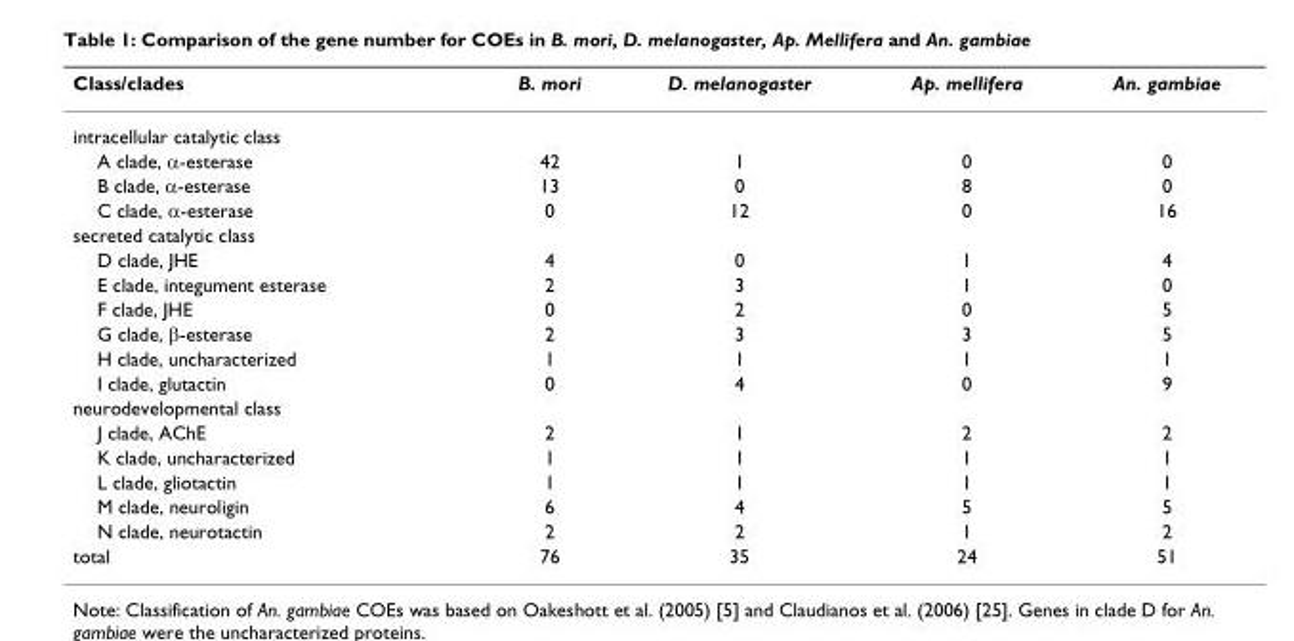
<table><thead><tr><td>Class/clades</td><td>B. mori</td><td>D. melanogaster</td><td>Ap. mellifera</td><td>An. gambiae</td></tr></thead><tbody><tr><td colspan="5">intracellular catalytic class</td></tr><tr><td>A clade, α-esterase</td><td>42</td><td>1</td><td>0</td><td>0</td></tr><tr><td>B clade, α-esterase</td><td>13</td><td>0</td><td>8</td><td>0</td></tr><tr><td>C clade, α-esterase</td><td>0</td><td>12</td><td>0</td><td>16</td></tr><tr><td colspan="5">secreted catalytic class</td></tr><tr><td>D clade, JHE</td><td>4</td><td>0</td><td>1</td><td>4</td></tr><tr><td>E clade, integument esterase</td><td>2</td><td>3</td><td>1</td><td>0</td></tr><tr><td>F clade, JHE</td><td>0</td><td>2</td><td>0</td><td>5</td></tr><tr><td>G clade, β-esterase</td><td>2</td><td>3</td><td>3</td><td>5</td></tr><tr><td>H clade, uncharacterized</td><td>1</td><td>1</td><td>1</td><td>1</td></tr><tr><td>I clade, glutactin</td><td>0</td><td>4</td><td>0</td><td>9</td></tr><tr><td colspan="5">neurodevelopmental class</td></tr><tr><td>J clade, AChE</td><td>2</td><td>1</td><td>2</td><td>2</td></tr><tr><td>K clade, uncharacterized</td><td>1</td><td>1</td><td>1</td><td>1</td></tr><tr><td>L clade, gliotactin</td><td>1</td><td>1</td><td>1</td><td>1</td></tr><tr><td>M clade, neuroligin</td><td>6</td><td>4</td><td>5</td><td>5</td></tr><tr><td>N clade, neurotactin</td><td>2</td><td>2</td><td>1</td><td>2</td></tr><tr><td>total</td><td>76</td><td>35</td><td>24</td><td>51</td></tr></tbody></table>